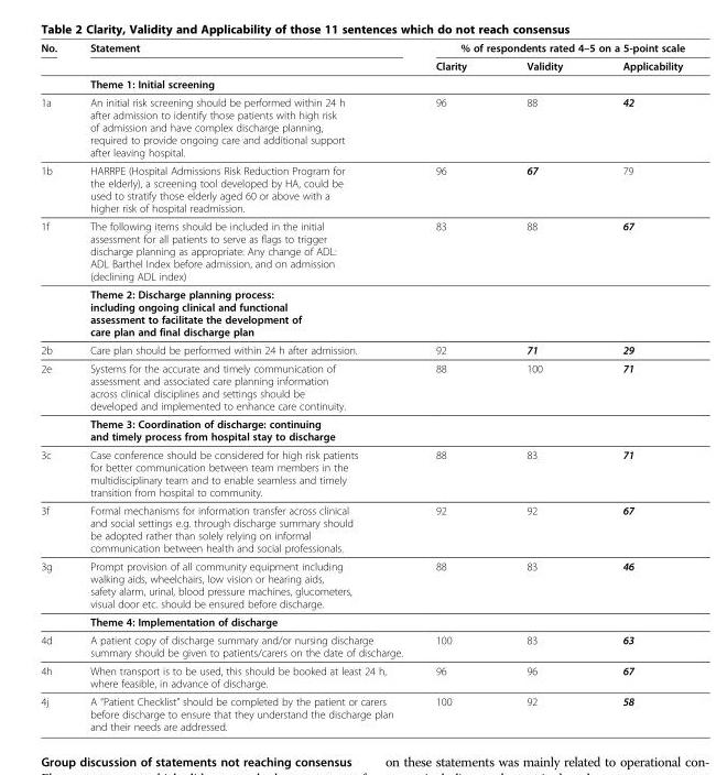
<table><thead><tr><td rowspan="2">No.</td><td rowspan="2">Statement</td><td colspan="3">% of respondents rated 4–5 on a 5-point scale</td></tr><tr><td>Clarity</td><td>Validity</td><td>Applicability</td></tr></thead><tbody><tr><td></td><td>Theme 1: Initial screening</td><td></td><td></td><td></td></tr><tr><td>1a</td><td>An initial risk screening should be performed within 24 h after admission to identify those patients with high risk of admission and have complex discharge planning, required to provide ongoing care and additional support after leaving hospital.</td><td>96</td><td>88</td><td>42</td></tr><tr><td>1b</td><td>HARRPE (Hospital Admissions Risk Reduction Program for the elderly), a screening tool developed by HA, could be used to stratify those elderly aged 60 or above with a higher risk of hospital readmission.</td><td>96</td><td>67</td><td>79</td></tr><tr><td rowspan="2">1f</td><td>The following items should be included in the initial assessment for all patients to serve as flags to trigger discharge planning as appropriate: Any change of ADL: ADL Barthel Index before admission, and on admission (declining ADL index)</td><td>83</td><td>88</td><td>67</td></tr><tr><td>Theme 2: Discharge planning process: including ongoing clinical and functional assessment to facilitate the development of care plan and final discharge plan</td><td></td><td></td><td></td></tr><tr><td>2b</td><td>Care plan should be performed within 24 h after admission.</td><td>92</td><td>71</td><td>29</td></tr><tr><td rowspan="2">2e</td><td>Systems for the accurate and timely communication of assessment and associated care planning information across clinical disciplines and settings should be developed and implemented to enhance care continuity.</td><td>88</td><td>100</td><td>71</td></tr><tr><td>Theme 3: Coordination of discharge: continuing and timely process from hospital stay to discharge</td><td></td><td></td><td></td></tr><tr><td>3c</td><td>Case conference should be considered for high risk patients for better communication between team members in the multidisciplinary team and to enable seamless and timely transition from hospital to community.</td><td>88</td><td>83</td><td>71</td></tr><tr><td>3f</td><td>Formal mechanisms for information transfer across clinical and social settings e.g. through discharge summary should be adopted rather than solely relying on informal communication between health and social professionals.</td><td>92</td><td>92</td><td>67</td></tr><tr><td rowspan="2">3g</td><td>Prompt provision of all community equipment including walking aids, wheelchairs, low vision or hearing aids, safety alarm, urinal, blood pressure machines, glucometers, visual door etc. should be ensured before discharge.</td><td>88</td><td>83</td><td>46</td></tr><tr><td>Theme 4: Implementation of discharge</td><td></td><td></td><td></td></tr><tr><td>4d</td><td>A patient copy of discharge summary and/or nursing discharge summary should be given to patients/carers on the date of discharge.</td><td>100</td><td>83</td><td>63</td></tr><tr><td>4h</td><td>When transport is to be used, this should be booked at least 24 h, where feasible, in advance of discharge.</td><td>96</td><td>96</td><td>67</td></tr><tr><td>4j</td><td>A “Patient Checklist” should be completed by the patient or carers before discharge to ensure that they understand the discharge plan and their needs are addressed.</td><td>100</td><td>92</td><td>58</td></tr></tbody></table>